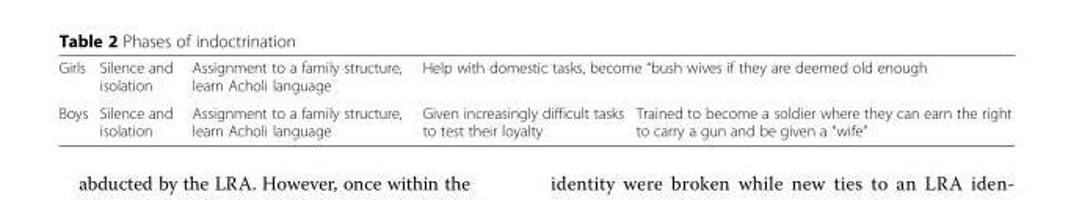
<table><tbody><tr><td>Girls</td><td>Silence and isolation</td><td>Assignment to a family structure, learn Acholi language</td><td colspan="2">Help with domestic tasks, become “bush wives if they are deemed old enough</td></tr><tr><td>Boys</td><td>Silence and isolation</td><td>Assignment to a family structure, learn Acholi language</td><td>Given increasingly difficult tasks to test their loyalty</td><td>Trained to become a soldier where they can earn the right to carry a gun and be given a “wife”</td></tr></tbody></table>